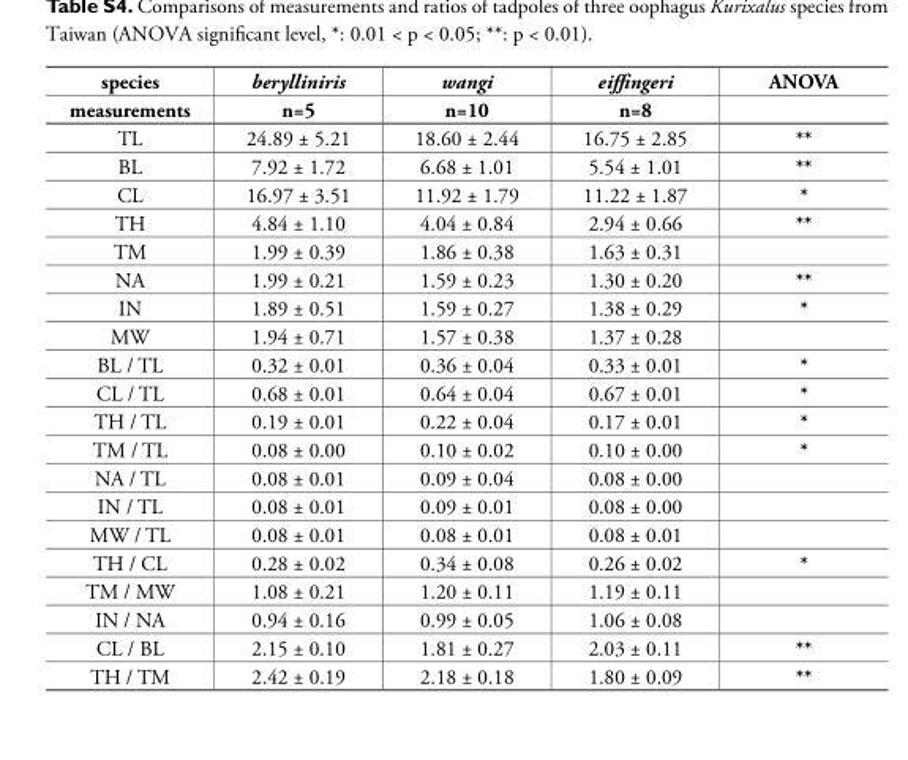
<table><thead><tr><td rowspan="2">species measurements</td><td rowspan="2">berylliniris n=5</td><td rowspan="2">wangi n=10</td><td rowspan="2">eiffingeri n=8</td><td rowspan="2">ANOVA</td></tr><tr></tr></thead><tbody><tr><td>TL</td><td>24.89 ± 5.21</td><td>18.60 ± 2.44</td><td>16.75 ± 2.85</td><td>**</td></tr><tr><td>BL</td><td>7.92 ± 1.72</td><td>6.68 ± 1.01</td><td>5.54 ± 1.01</td><td>**</td></tr><tr><td>CL</td><td>16.97 ± 3.51</td><td>11.92 ± 1.79</td><td>11.22 ± 1.87</td><td>*</td></tr><tr><td>TH</td><td>4.84 ± 1.10</td><td>4.04 ± 0.84</td><td>2.94 ± 0.66</td><td>**</td></tr><tr><td>TM</td><td>1.99 ± 0.39</td><td>1.86 ± 0.38</td><td>1.63 ± 0.31</td><td></td></tr><tr><td>NA</td><td>1.99 ± 0.21</td><td>1.59 ± 0.23</td><td>1.30 ± 0.20</td><td>**</td></tr><tr><td>IN</td><td>1.89 ± 0.51</td><td>1.59 ± 0.27</td><td>1.38 ± 0.29</td><td>*</td></tr><tr><td>MW</td><td>1.94 ± 0.71</td><td>1.57 ± 0.38</td><td>1.37 ± 0.28</td><td></td></tr><tr><td>BL / TL</td><td>0.32 ± 0.01</td><td>0.36 ± 0.04</td><td>0.33 ± 0.01</td><td>*</td></tr><tr><td>CL / TL</td><td>0.68 ± 0.01</td><td>0.64 ± 0.04</td><td>0.67 ± 0.01</td><td>*</td></tr><tr><td>TH / TL</td><td>0.19 ± 0.01</td><td>0.22 ± 0.04</td><td>0.17 ± 0.01</td><td>*</td></tr><tr><td>TM / TL</td><td>0.08 ± 0.00</td><td>0.10 ± 0.02</td><td>0.10 ± 0.00</td><td>*</td></tr><tr><td>NA / TL</td><td>0.08 ± 0.01</td><td>0.09 ± 0.04</td><td>0.08 ± 0.00</td><td></td></tr><tr><td>IN / TL</td><td>0.08 ± 0.01</td><td>0.09 ± 0.01</td><td>0.08 ± 0.00</td><td></td></tr><tr><td>MW / TL</td><td>0.08 ± 0.01</td><td>0.08 ± 0.01</td><td>0.08 ± 0.01</td><td></td></tr><tr><td>TH / CL</td><td>0.28 ± 0.02</td><td>0.34 ± 0.08</td><td>0.26 ± 0.02</td><td>*</td></tr><tr><td>TM / MW</td><td>1.08 ± 0.21</td><td>1.20 ± 0.11</td><td>1.19 ± 0.11</td><td></td></tr><tr><td>IN / NA</td><td>0.94 ± 0.16</td><td>0.99 ± 0.05</td><td>1.06 ± 0.08</td><td></td></tr><tr><td>CL / BL</td><td>2.15 ± 0.10</td><td>1.81 ± 0.27</td><td>2.03 ± 0.11</td><td>**</td></tr><tr><td>TH / TM</td><td>2.42 ± 0.19</td><td>2.18 ± 0.18</td><td>1.80 ± 0.09</td><td>**</td></tr></tbody></table>